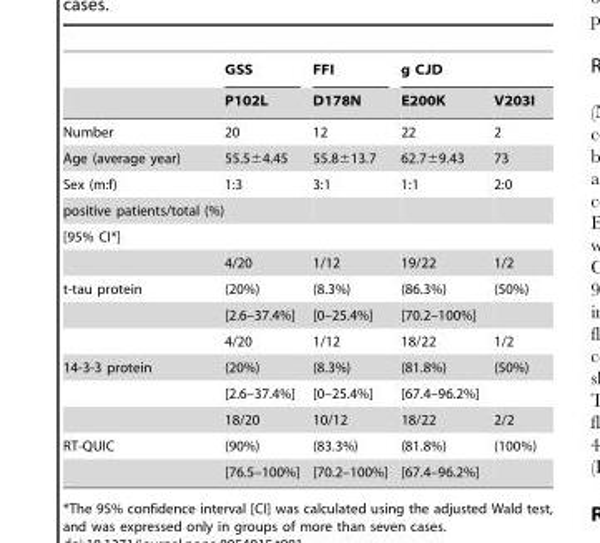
<table><thead><tr><td rowspan="2"></td><td rowspan="2">GSS P102L</td><td rowspan="2">FFI D178N</td><td colspan="2">g CJD</td></tr><tr><td>E200K</td><td>V203I</td></tr></thead><tbody><tr><td>Number</td><td>20</td><td>12</td><td>22</td><td>2</td></tr><tr><td>Age (average year)</td><td>55.5±4.45</td><td>55.8±13.7</td><td>62.7±9.43</td><td>73</td></tr><tr><td>Sex (m:f)</td><td>1:3</td><td>3:1</td><td>1:1</td><td>2:0</td></tr><tr><td colspan="5">positive patients/total (%)</td></tr><tr><td colspan="5">[95% CI*]</td></tr><tr><td></td><td>4/20</td><td>1/12</td><td>19/22</td><td>1/2</td></tr><tr><td rowspan="3">t-tau protein</td><td>(20%)</td><td>(8.3%)</td><td>(86.3%)</td><td>(50%)</td></tr><tr><td>[2.6–37.4%]</td><td>[0–25.4%]</td><td>[70.2–100%]</td><td></td></tr><tr><td>4/20</td><td>1/12</td><td>18/22</td><td>1/2</td></tr><tr><td rowspan="3">14-3-3 protein</td><td>(20%)</td><td>(8.3%)</td><td>(81.8%)</td><td>(50%)</td></tr><tr><td>[2.6–37.4%]</td><td>[0–25.4%]</td><td>[67.4–96.2%]</td><td></td></tr><tr><td>18/20</td><td>10/12</td><td>18/22</td><td>2/2</td></tr><tr><td rowspan="2">RT-QUIC</td><td>(90%)</td><td>(83.3%)</td><td>(81.8%)</td><td>(100%)</td></tr><tr><td>[76.5–100%]</td><td>[70.2–100%]</td><td>[67.4–96.2%]</td><td></td></tr></tbody></table>